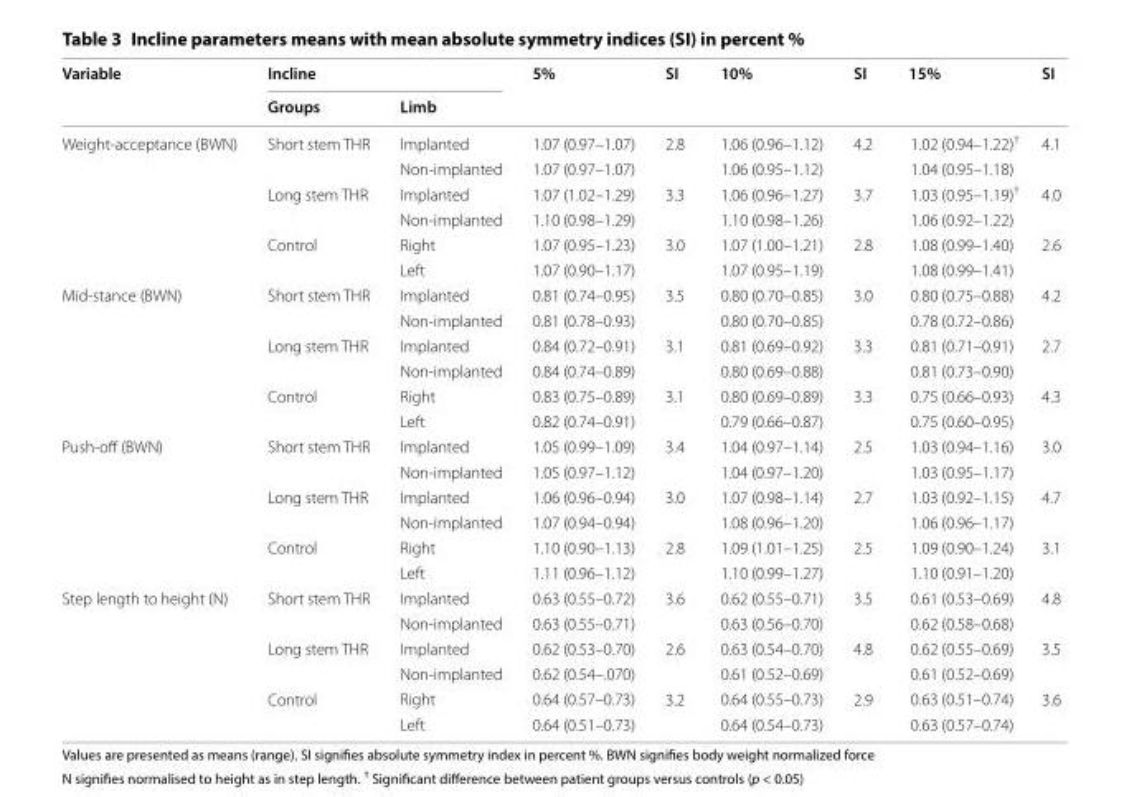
<table><thead><tr><td rowspan="2">Variable</td><td colspan="2">Incline</td><td rowspan="2">5%</td><td rowspan="2">SI</td><td rowspan="2">10%</td><td rowspan="2">SI</td><td rowspan="2">15%</td><td rowspan="2">SI</td></tr><tr><td>Groups</td><td>Limb</td></tr></thead><tbody><tr><td rowspan="6">Weight-acceptance (BWN)</td><td rowspan="2">Short stem THR</td><td>Implanted</td><td>1.07 (0.97–1.07)</td><td rowspan="2">2.8</td><td>1.06 (0.96–1.12)</td><td rowspan="2">4.2</td><td>1.02 (0.94–1.22)<sup>†</sup></td><td rowspan="2">4.1</td></tr><tr><td>Non-implanted</td><td>1.07 (0.97–1.07)</td><td>1.06 (0.95–1.12)</td><td>1.04 (0.95–1.18)</td></tr><tr><td rowspan="2">Long stem THR</td><td>Implanted</td><td>1.07 (1.02–1.29)</td><td rowspan="2">3.3</td><td>1.06 (0.96–1.27)</td><td rowspan="2">3.7</td><td>1.03 (0.95–1.19)<sup>†</sup></td><td rowspan="2">4.0</td></tr><tr><td>Non-implanted</td><td>1.10 (0.98–1.29)</td><td>1.10 (0.98–1.26)</td><td>1.06 (0.92–1.22)</td></tr><tr><td rowspan="2">Control</td><td>Right</td><td>1.07 (0.95–1.23)</td><td rowspan="2">3.0</td><td>1.07 (1.00–1.21)</td><td rowspan="2">2.8</td><td>1.08 (0.99–1.40)</td><td rowspan="2">2.6</td></tr><tr><td>Left</td><td>1.07 (0.90–1.17)</td><td>1.07 (0.95–1.19)</td><td>1.08 (0.99–1.41)</td></tr><tr><td rowspan="6">Mid-stance (BWN)</td><td rowspan="2">Short stem THR</td><td>Implanted</td><td>0.81 (0.74–0.95)</td><td rowspan="2">3.5</td><td>0.80 (0.70–0.85)</td><td rowspan="2">3.0</td><td>0.80 (0.75–0.88)</td><td rowspan="2">4.2</td></tr><tr><td>Non-implanted</td><td>0.81 (0.78–0.93)</td><td>0.80 (0.70–0.85)</td><td>0.78 (0.72–0.86)</td></tr><tr><td rowspan="2">Long stem THR</td><td>Implanted</td><td>0.84 (0.72–0.91)</td><td rowspan="2">3.1</td><td>0.81 (0.69–0.92)</td><td rowspan="2">3.3</td><td>0.81 (0.71–0.91)</td><td rowspan="2">2.7</td></tr><tr><td>Non-implanted</td><td>0.84 (0.74–0.89)</td><td>0.80 (0.69–0.88)</td><td>0.81 (0.73–0.90)</td></tr><tr><td rowspan="2">Control</td><td>Right</td><td>0.83 (0.75–0.89)</td><td rowspan="2">3.1</td><td>0.80 (0.69–0.89)</td><td rowspan="2">3.3</td><td>0.75 (0.66–0.93)</td><td rowspan="2">4.3</td></tr><tr><td>Left</td><td>0.82 (0.74–0.91)</td><td>0.79 (0.66–0.87)</td><td>0.75 (0.60–0.95)</td></tr><tr><td rowspan="6">Push-off (BWN)</td><td rowspan="2">Short stem THR</td><td>Implanted</td><td>1.05 (0.99–1.09)</td><td rowspan="2">3.4</td><td>1.04 (0.97–1.14)</td><td rowspan="2">2.5</td><td>1.03 (0.94–1.16)</td><td rowspan="2">3.0</td></tr><tr><td>Non-implanted</td><td>1.05 (0.97–1.12)</td><td>1.04 (0.97–1.20)</td><td>1.03 (0.95–1.17)</td></tr><tr><td rowspan="2">Long stem THR</td><td>Implanted</td><td>1.06 (0.96–0.94)</td><td rowspan="2">3.0</td><td>1.07 (0.98–1.14)</td><td rowspan="2">2.7</td><td>1.03 (0.92–1.15)</td><td rowspan="2">4.7</td></tr><tr><td>Non-implanted</td><td>1.07 (0.94–0.94)</td><td>1.08 (0.96–1.20)</td><td>1.06 (0.96–1.17)</td></tr><tr><td rowspan="2">Control</td><td>Right</td><td>1.10 (0.90–1.13)</td><td rowspan="2">2.8</td><td>1.09 (1.01–1.25)</td><td rowspan="2">2.5</td><td>1.09 (0.90–1.24)</td><td rowspan="2">3.1</td></tr><tr><td>Left</td><td>1.11 (0.96–1.12)</td><td>1.10 (0.99–1.27)</td><td>1.10 (0.91–1.20)</td></tr><tr><td rowspan="6">Step length to height (N)</td><td rowspan="2">Short stem THR</td><td>Implanted</td><td>0.63 (0.55–0.72)</td><td rowspan="2">3.6</td><td>0.62 (0.55–0.71)</td><td rowspan="2">3.5</td><td>0.61 (0.53–0.69)</td><td rowspan="2">4.8</td></tr><tr><td>Non-implanted</td><td>0.63 (0.55–0.71)</td><td>0.63 (0.56–0.70)</td><td>0.62 (0.58–0.68)</td></tr><tr><td rowspan="2">Long stem THR</td><td>Implanted</td><td>0.62 (0.53–0.70)</td><td rowspan="2">2.6</td><td>0.63 (0.54–0.70)</td><td rowspan="2">4.8</td><td>0.62 (0.55–0.69)</td><td rowspan="2">3.5</td></tr><tr><td>Non-implanted</td><td>0.62 (0.54–.070)</td><td>0.61 (0.52–0.69)</td><td>0.61 (0.52–0.69)</td></tr><tr><td rowspan="2">Control</td><td>Right</td><td>0.64 (0.57–0.73)</td><td rowspan="2">3.2</td><td>0.64 (0.55–0.73)</td><td rowspan="2">2.9</td><td>0.63 (0.51–0.74)</td><td rowspan="2">3.6</td></tr><tr><td>Left</td><td>0.64 (0.51–0.73)</td><td>0.64 (0.54–0.73)</td><td>0.63 (0.57–0.74)</td></tr></tbody></table>